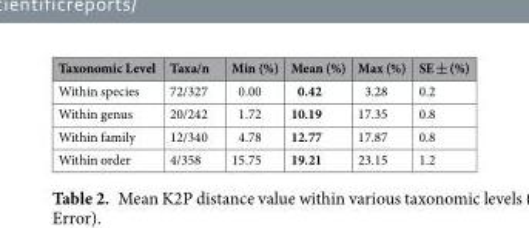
<table><thead><tr><td>Taxonomic Level</td><td>Taxa/n</td><td>Min (%)</td><td>Mean (%)</td><td>Max (%)</td><td>SE ± (%)</td></tr></thead><tbody><tr><td>Within species</td><td>72/327</td><td>0.00</td><td>0.42</td><td>3.28</td><td>0.2</td></tr><tr><td>Within genus</td><td>20/242</td><td>1.72</td><td>10.19</td><td>17.35</td><td>0.8</td></tr><tr><td>Within family</td><td>12/340</td><td>4.78</td><td>12.77</td><td>17.87</td><td>0.8</td></tr><tr><td>Within order</td><td>4/358</td><td>15.75</td><td>19.21</td><td>23.15</td><td>1.2</td></tr></tbody></table>